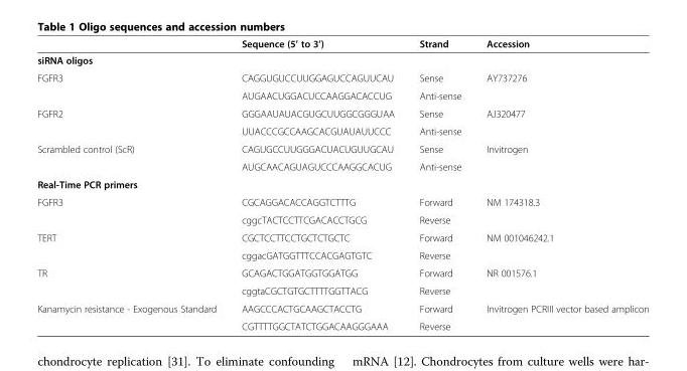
<table><thead><tr><td></td><td>Sequence (5’ to 3’)</td><td>Strand</td><td>Accession</td></tr></thead><tbody><tr><td colspan="4">siRNA oligos</td></tr><tr><td rowspan="2">FGFR3</td><td>CAGGUGUCCUUGGAGUCCAGUUCAU</td><td>Sense</td><td>AY737276</td></tr><tr><td>AUGAACUGGACUCCAAGGACACCUG</td><td>Anti-sense</td><td></td></tr><tr><td rowspan="2">FGFR2</td><td>GGGAAUAUACGUGCUUGGCGGGUAA</td><td>Sense</td><td>AJ320477</td></tr><tr><td>UUACCCGCCAAGCACGUAUAUUCCC</td><td>Anti-sense</td><td></td></tr><tr><td rowspan="2">Scrambled control (ScR)</td><td>CAGUGCCUUGGGACUACUGUUGCAU</td><td>Sense</td><td>Invitrogen</td></tr><tr><td>AUGCAACAGUAGUCCCAAGGCACUG</td><td>Anti-sense</td><td></td></tr><tr><td colspan="4">Real-Time PCR primers</td></tr><tr><td rowspan="2">FGFR3</td><td>CGCAGGACACCAGGTCTTTG</td><td>Forward</td><td>NM 174318.3</td></tr><tr><td>cggcTACTCCTTCGACACCTGCG</td><td>Reverse</td><td></td></tr><tr><td rowspan="2">TERT</td><td>CGCTCCTTCCTGCTCTGCTC</td><td>Forward</td><td>NM 001046242.1</td></tr><tr><td>cggacGATGGTTTCCACGAGTGTC</td><td>Reverse</td><td></td></tr><tr><td rowspan="2">TR</td><td>GCAGACTGGATGGTGGATGG</td><td>Forward</td><td>NR 001576.1</td></tr><tr><td>cggtaCGCTGTGCTTTTGGTTACG</td><td>Reverse</td><td></td></tr><tr><td rowspan="2">Kanamycin resistance - Exogenous Standard</td><td>AAGCCCACTGCAAGCTACCTG</td><td>Forward</td><td>Invitrogen PCRIII vector based amplicon</td></tr><tr><td>CGTTTTGGCTATCTGGACAAGGGAAA</td><td>Reverse</td><td></td></tr></tbody></table>